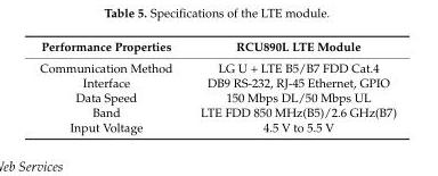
<table><thead><tr><td>Performance Properties</td><td>RCU890L LTE Module</td></tr></thead><tbody><tr><td>Communication Method</td><td>LG U + LTE B5/B7 FDD Cat.4</td></tr><tr><td>Interface</td><td>DB9 RS-232, RJ-45 Ethernet, GPIO</td></tr><tr><td>Data Speed</td><td>150 Mbps DL/50 Mbps UL</td></tr><tr><td>Band</td><td>LTE FDD 850 MHz(B5)/2.6 GHz(B7)</td></tr><tr><td>Input Voltage</td><td>4.5 V to 5.5 V</td></tr></tbody></table>